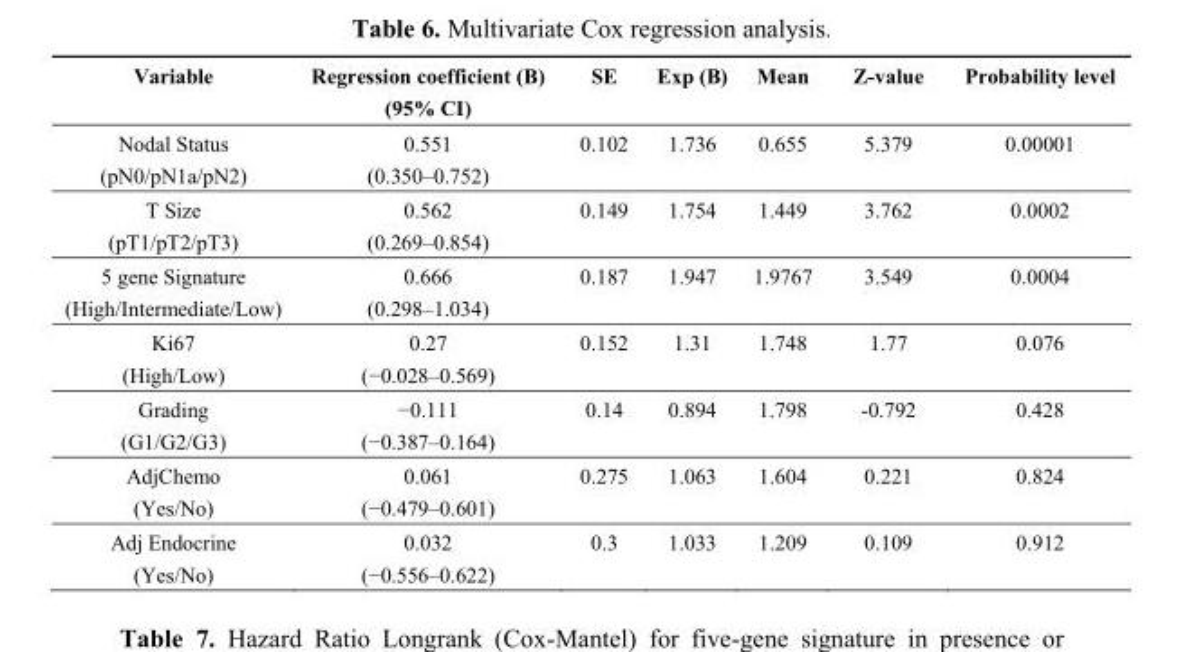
<table><thead><tr><td>Variable</td><td>Regression coefficient (B) (95% CI)</td><td>SE</td><td>Exp (B)</td><td>Mean</td><td>Z-value</td><td>Probability level</td></tr></thead><tbody><tr><td>Nodal Status (pN0/pN1a/pN2)</td><td>0.551 (0.350–0.752)</td><td>0.102</td><td>1.736</td><td>0.655</td><td>5.379</td><td>0.00001</td></tr><tr><td>T Size (pT1/pT2/pT3)</td><td>0.562 (0.269–0.854)</td><td>0.149</td><td>1.754</td><td>1.449</td><td>3.762</td><td>0.0002</td></tr><tr><td>5 gene Signature (High/Intermediate/Low)</td><td>0.666 (0.298–1.034)</td><td>0.187</td><td>1.947</td><td>1.9767</td><td>3.549</td><td>0.0004</td></tr><tr><td>Ki67 (High/Low)</td><td>0.27 (−0.028–0.569)</td><td>0.152</td><td>1.31</td><td>1.748</td><td>1.77</td><td>0.076</td></tr><tr><td>Grading (G1/G2/G3)</td><td>−0.111 (−0.387–0.164)</td><td>0.14</td><td>0.894</td><td>1.798</td><td>-0.792</td><td>0.428</td></tr><tr><td>AdjChemo (Yes/No)</td><td>0.061 (−0.479–0.601)</td><td>0.275</td><td>1.063</td><td>1.604</td><td>0.221</td><td>0.824</td></tr><tr><td>Adj Endocrine (Yes/No)</td><td>0.032 (−0.556–0.622)</td><td>0.3</td><td>1.033</td><td>1.209</td><td>0.109</td><td>0.912</td></tr></tbody></table>